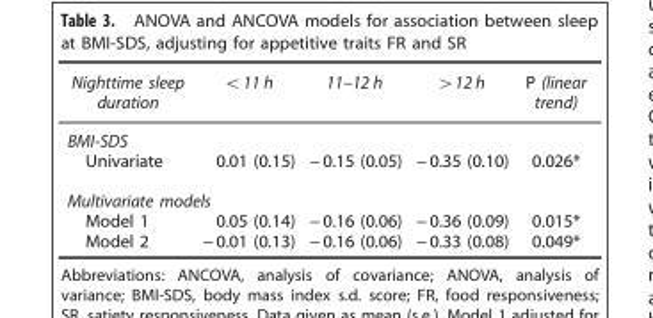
<table><thead><tr><td>Nighttime sleep duration</td><td>&lt;11 h</td><td>11–12 h</td><td>&gt;12 h</td><td>P (linear trend)</td></tr></thead><tbody><tr><td colspan="5">BMI-SDS</td></tr><tr><td>Univariate</td><td>0.01 (0.15)</td><td>− 0.15 (0.05)</td><td>− 0.35 (0.10)</td><td>0.026*</td></tr><tr><td colspan="5">Multivariate models</td></tr><tr><td>Model 1</td><td>0.05 (0.14)</td><td>− 0.16 (0.06)</td><td>− 0.36 (0.09)</td><td>0.015*</td></tr><tr><td>Model 2</td><td>− 0.01 (0.13)</td><td>− 0.16 (0.06)</td><td>− 0.33 (0.08)</td><td>0.049*</td></tr></tbody></table>